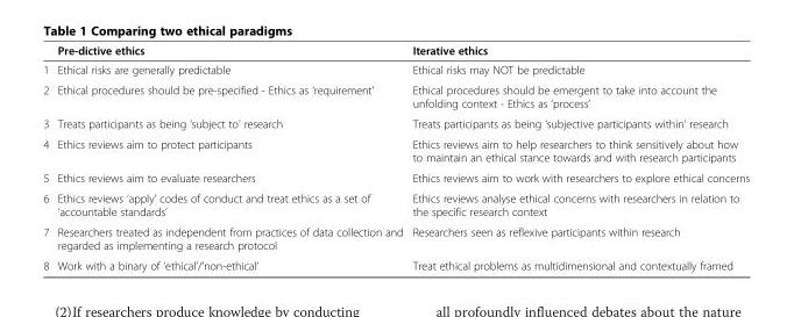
<table><thead><tr><td></td><td>Pre-dictive ethics</td><td>Iterative ethics</td></tr></thead><tbody><tr><td>1</td><td>Ethical risks are generally predictable</td><td>Ethical risks may NOT be predictable</td></tr><tr><td>2</td><td>Ethical procedures should be pre-specified - Ethics as ‘requirement’</td><td>Ethical procedures should be emergent to take into account the unfolding context - Ethics as ‘process’</td></tr><tr><td>3</td><td>Treats participants as being ‘subject to’ research</td><td>Treats participants as being ‘subjective participants within’ research</td></tr><tr><td>4</td><td>Ethics reviews aim to protect participants</td><td>Ethics reviews aim to help researchers to think sensitively about how to maintain an ethical stance towards and with research participants</td></tr><tr><td>5</td><td>Ethics reviews aim to evaluate researchers</td><td>Ethics reviews aim to work with researchers to explore ethical concerns</td></tr><tr><td>6</td><td>Ethics reviews ‘apply’ codes of conduct and treat ethics as a set of ‘accountable standards’</td><td>Ethics reviews analyse ethical concerns with researchers in relation to the specific research context</td></tr><tr><td>7</td><td>Researchers treated as independent from practices of data collection and regarded as implementing a research protocol</td><td>Researchers seen as reflexive participants within research</td></tr><tr><td>8</td><td>Work with a binary of ‘ethical’/‘non-ethical’</td><td>Treat ethical problems as multidimensional and contextually framed</td></tr></tbody></table>